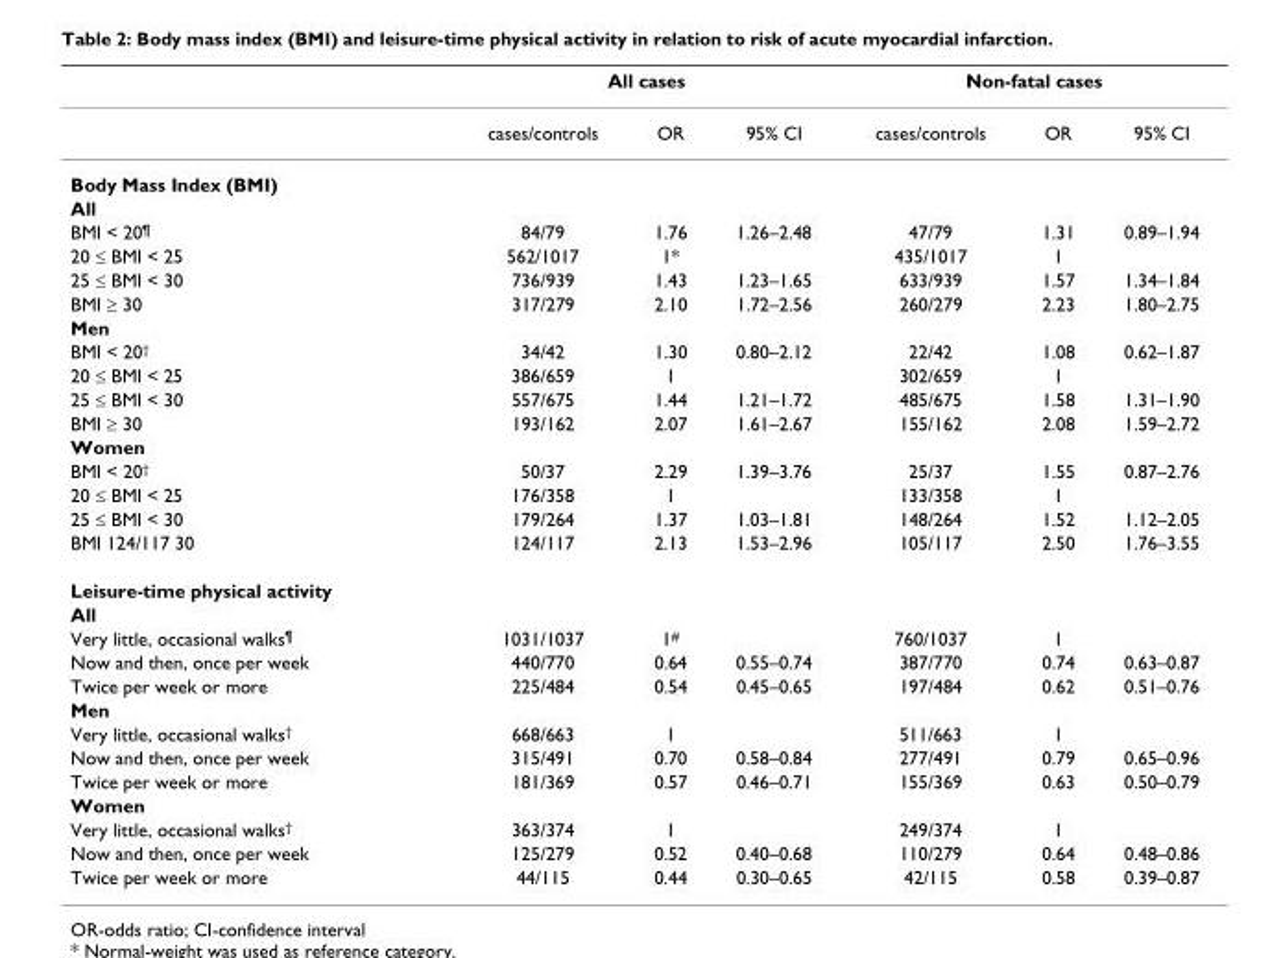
<table><thead><tr><td rowspan="2"></td><td colspan="3">All cases</td><td colspan="3">Non-fatal cases</td></tr><tr><td>cases/controls</td><td>OR</td><td>95% CI</td><td>cases/controls</td><td>OR</td><td>95% CI</td></tr></thead><tbody><tr><td colspan="7">Body Mass Index (BMI)</td></tr><tr><td colspan="7">All</td></tr><tr><td>BMI &lt; 20¶</td><td>84/79</td><td>1.76</td><td>1.26–2.48</td><td>47/79</td><td>1.31</td><td>0.89–1.94</td></tr><tr><td>20 ≤ BMI &lt; 25</td><td>562/1017</td><td>1*</td><td></td><td>435/1017</td><td>1</td><td></td></tr><tr><td>25 ≤ BMI &lt; 30</td><td>736/939</td><td>1.43</td><td>1.23–1.65</td><td>633/939</td><td>1.57</td><td>1.34–1.84</td></tr><tr><td>BMI ≥ 30</td><td>317/279</td><td>2.10</td><td>1.72–2.56</td><td>260/279</td><td>2.23</td><td>1.80–2.75</td></tr><tr><td colspan="7">Men</td></tr><tr><td>BMI &lt; 20†</td><td>34/42</td><td>1.30</td><td>0.80–2.12</td><td>22/42</td><td>1.08</td><td>0.62–1.87</td></tr><tr><td>20 ≤ BMI &lt; 25</td><td>386/659</td><td>1</td><td></td><td>302/659</td><td>1</td><td></td></tr><tr><td>25 ≤ BMI &lt; 30</td><td>557/675</td><td>1.44</td><td>1.21–1.72</td><td>485/675</td><td>1.58</td><td>1.31–1.90</td></tr><tr><td>BMI ≥ 30</td><td>193/162</td><td>2.07</td><td>1.61–2.67</td><td>155/162</td><td>2.08</td><td>1.59–2.72</td></tr><tr><td colspan="7">Women</td></tr><tr><td>BMI &lt; 20†</td><td>50/37</td><td>2.29</td><td>1.39–3.76</td><td>25/37</td><td>1.55</td><td>0.87–2.76</td></tr><tr><td>20 ≤ BMI &lt; 25</td><td>176/358</td><td>1</td><td></td><td>133/358</td><td>1</td><td></td></tr><tr><td>25 ≤ BMI &lt; 30</td><td>179/264</td><td>1.37</td><td>1.03–1.81</td><td>148/264</td><td>1.52</td><td>1.12–2.05</td></tr><tr><td>BMI 124/117 30</td><td>124/117</td><td>2.13</td><td>1.53–2.96</td><td>105/117</td><td>2.50</td><td>1.76–3.55</td></tr><tr><td colspan="7">Leisure-time physical activity</td></tr><tr><td colspan="7">All</td></tr><tr><td>Very little, occasional walks¶</td><td>1031/1037</td><td>1#</td><td></td><td>760/1037</td><td>1</td><td></td></tr><tr><td>Now and then, once per week</td><td>440/770</td><td>0.64</td><td>0.55–0.74</td><td>387/770</td><td>0.74</td><td>0.63–0.87</td></tr><tr><td>Twice per week or more</td><td>225/484</td><td>0.54</td><td>0.45–0.65</td><td>197/484</td><td>0.62</td><td>0.51–0.76</td></tr><tr><td colspan="7">Men</td></tr><tr><td>Very little, occasional walks†</td><td>668/663</td><td>1</td><td></td><td>511/663</td><td>1</td><td></td></tr><tr><td>Now and then, once per week</td><td>315/491</td><td>0.70</td><td>0.58–0.84</td><td>277/491</td><td>0.79</td><td>0.65–0.96</td></tr><tr><td>Twice per week or more</td><td>181/369</td><td>0.57</td><td>0.46–0.71</td><td>155/369</td><td>0.63</td><td>0.50–0.79</td></tr><tr><td colspan="7">Women</td></tr><tr><td>Very little, occasional walks†</td><td>363/374</td><td>1</td><td></td><td>249/374</td><td>1</td><td></td></tr><tr><td>Now and then, once per week</td><td>125/279</td><td>0.52</td><td>0.40–0.68</td><td>110/279</td><td>0.64</td><td>0.48–0.86</td></tr><tr><td>Twice per week or more</td><td>44/115</td><td>0.44</td><td>0.30–0.65</td><td>42/115</td><td>0.58</td><td>0.39–0.87</td></tr></tbody></table>